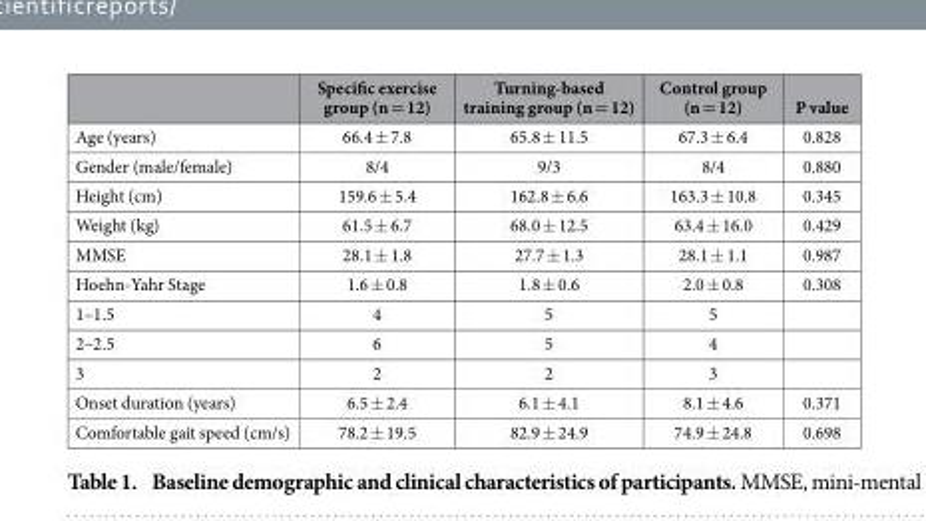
<table><thead><tr><td></td><td>Specific exercise group (n = 12)</td><td>Turning-based training group (n = 12)</td><td>Control group (n = 12)</td><td>P value</td></tr></thead><tbody><tr><td>Age (years)</td><td>66.4 ± 7.8</td><td>65.8 ± 11.5</td><td>67.3 ± 6.4</td><td>0.828</td></tr><tr><td>Gender (male/female)</td><td>8/4</td><td>9/3</td><td>8/4</td><td>0.880</td></tr><tr><td>Height (cm)</td><td>159.6 ± 5.4</td><td>162.8 ± 6.6</td><td>163.3 ± 10.8</td><td>0.345</td></tr><tr><td>Weight (kg)</td><td>61.5 ± 6.7</td><td>68.0 ± 12.5</td><td>63.4 ± 16.0</td><td>0.429</td></tr><tr><td>MMSE</td><td>28.1 ± 1.8</td><td>27.7 ± 1.3</td><td>28.1 ± 1.1</td><td>0.987</td></tr><tr><td>Hoehn-Yahr Stage</td><td>1.6 ± 0.8</td><td>1.8 ± 0.6</td><td>2.0 ± 0.8</td><td>0.308</td></tr><tr><td>1–1.5</td><td>4</td><td>5</td><td>5</td><td></td></tr><tr><td>2–2.5</td><td>6</td><td>5</td><td>4</td><td></td></tr><tr><td>3</td><td>2</td><td>2</td><td>3</td><td></td></tr><tr><td>Onset duration (years)</td><td>6.5 ± 2.4</td><td>6.1 ± 4.1</td><td>8.1 ± 4.6</td><td>0.371</td></tr><tr><td>Comfortable gait speed (cm/s)</td><td>78.2 ± 19.5</td><td>82.9 ± 24.9</td><td>74.9 ± 24.8</td><td>0.698</td></tr></tbody></table>